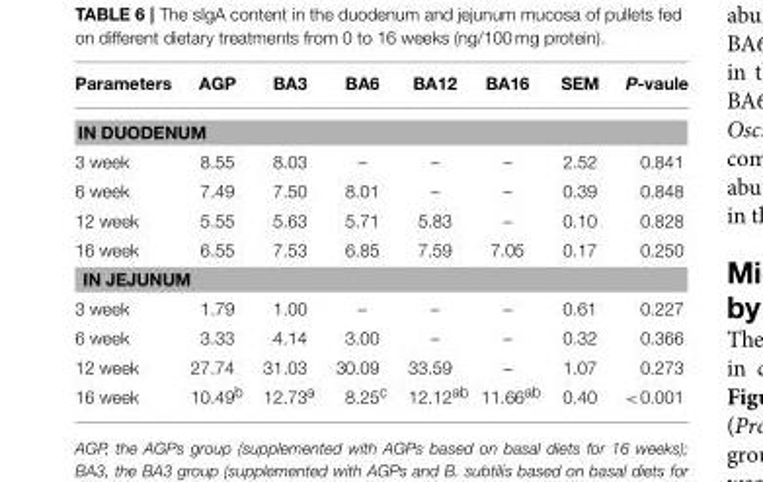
<table><thead><tr><td>Parameters</td><td>AGP</td><td>BA3</td><td>BA6</td><td>BA12</td><td>BA16</td><td>SEM</td><td>P-vaule</td></tr></thead><tbody><tr><td colspan="8">IN DUODENUM</td></tr><tr><td>3 week</td><td>8.55</td><td>8.03</td><td>–</td><td>–</td><td>–</td><td>2.52</td><td>0.841</td></tr><tr><td>6 week</td><td>7.49</td><td>7.50</td><td>8.01</td><td>–</td><td>–</td><td>0.39</td><td>0.848</td></tr><tr><td>12 week</td><td>5.55</td><td>5.63</td><td>5.71</td><td>5.83</td><td>–</td><td>0.10</td><td>0.828</td></tr><tr><td>16 week</td><td>6.55</td><td>7.53</td><td>6.85</td><td>7.59</td><td>7.05</td><td>0.17</td><td>0.250</td></tr><tr><td colspan="8">IN JEJUNUM</td></tr><tr><td>3 week</td><td>1.79</td><td>1.00</td><td>–</td><td>–</td><td>–</td><td>0.61</td><td>0.227</td></tr><tr><td>6 week</td><td>3.33</td><td>4.14</td><td>3.00</td><td>–</td><td>–</td><td>0.32</td><td>0.366</td></tr><tr><td>12 week</td><td>27.74</td><td>31.03</td><td>30.09</td><td>33.59</td><td>–</td><td>1.07</td><td>0.273</td></tr><tr><td>16 week</td><td>10.49<sup>b</sup></td><td>12.73<sup>a</sup></td><td>8.25<sup>c</sup></td><td>12.12<sup>ab</sup></td><td>11.66<sup>ab</sup></td><td>0.40</td><td>&lt;0.001</td></tr></tbody></table>